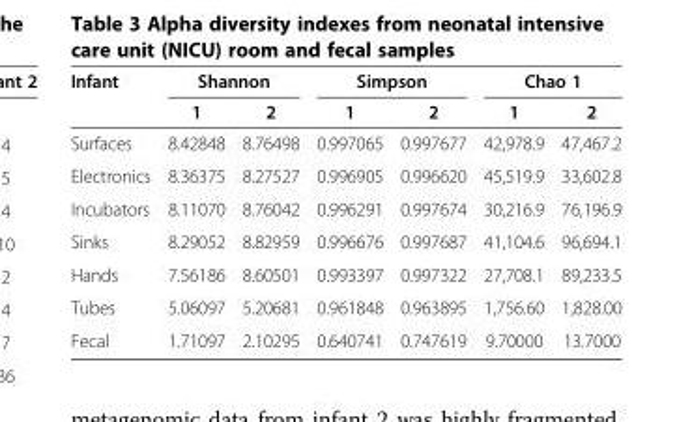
<table><thead><tr><td rowspan="2">Infant</td><td colspan="2">Shannon</td><td colspan="2">Simpson</td><td colspan="2">Chao 1</td></tr><tr><td>1</td><td>2</td><td>1</td><td>2</td><td>1</td><td>2</td></tr></thead><tbody><tr><td>Surfaces</td><td>8.42848</td><td>8.76498</td><td>0.997065</td><td>0.997677</td><td>42,978.9</td><td>47,467.2</td></tr><tr><td>Electronics</td><td>8.36375</td><td>8.27527</td><td>0.996905</td><td>0.996620</td><td>45,519.9</td><td>33,602.8</td></tr><tr><td>Incubators</td><td>8.11070</td><td>8.76042</td><td>0.996291</td><td>0.997674</td><td>30,216.9</td><td>76,196.9</td></tr><tr><td>Sinks</td><td>8.29052</td><td>8.82959</td><td>0.996676</td><td>0.997687</td><td>41,104.6</td><td>96,694.1</td></tr><tr><td>Hands</td><td>7.56186</td><td>8.60501</td><td>0.993397</td><td>0.997322</td><td>27,708.1</td><td>89,233.5</td></tr><tr><td>Tubes</td><td>5.06097</td><td>5.20681</td><td>0.961848</td><td>0.963895</td><td>1,756.60</td><td>1,828.00</td></tr><tr><td>Fecal</td><td>1.71097</td><td>2.10295</td><td>0.640741</td><td>0.747619</td><td>9.70000</td><td>13.7000</td></tr></tbody></table>